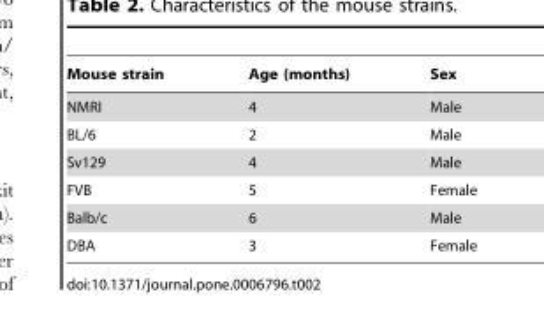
<table><thead><tr><td>Mouse strain</td><td>Age (months)</td><td>Sex</td></tr></thead><tbody><tr><td>NMRI</td><td>4</td><td>Male</td></tr><tr><td>BL/6</td><td>2</td><td>Male</td></tr><tr><td>Sv129</td><td>4</td><td>Male</td></tr><tr><td>FVB</td><td>5</td><td>Female</td></tr><tr><td>Balb/c</td><td>6</td><td>Male</td></tr><tr><td>DBA</td><td>3</td><td>Female</td></tr></tbody></table>